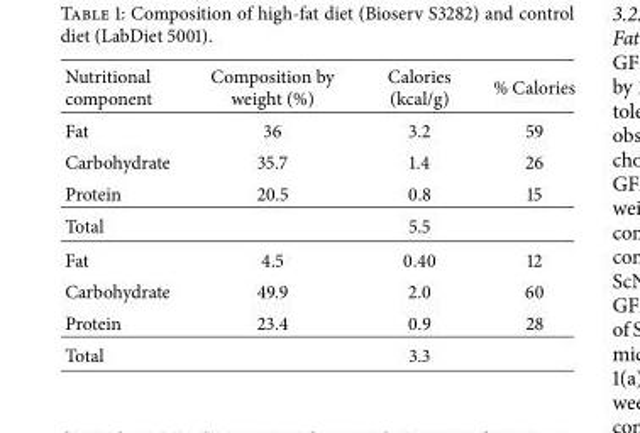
<table><thead><tr><td>Nutritional component</td><td>Composition by weight (%)</td><td>Calories (kcal/g)</td><td>% Calories</td></tr></thead><tbody><tr><td>Fat</td><td>36</td><td>3.2</td><td>59</td></tr><tr><td>Carbohydrate</td><td>35.7</td><td>1.4</td><td>26</td></tr><tr><td>Protein</td><td>20.5</td><td>0.8</td><td>15</td></tr><tr><td>Total</td><td></td><td>5.5</td><td></td></tr><tr><td>Fat</td><td>4.5</td><td>0.40</td><td>12</td></tr><tr><td>Carbohydrate</td><td>49.9</td><td>2.0</td><td>60</td></tr><tr><td>Protein</td><td>23.4</td><td>0.9</td><td>28</td></tr><tr><td>Total</td><td></td><td>3.3</td><td></td></tr></tbody></table>